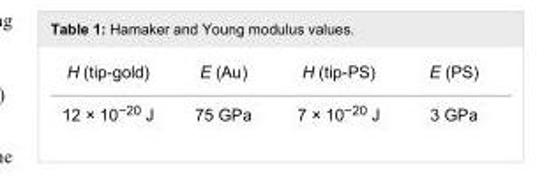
<table><tbody><tr><td>H (tip-gold)</td><td>E (Au)</td><td>H (tip-PS)</td><td>E (PS)</td></tr><tr><td>12 × 10<sup>−20</sup> J</td><td>75 GPa</td><td>7 × 10<sup>−20</sup> J</td><td>3 GPa</td></tr></tbody></table>